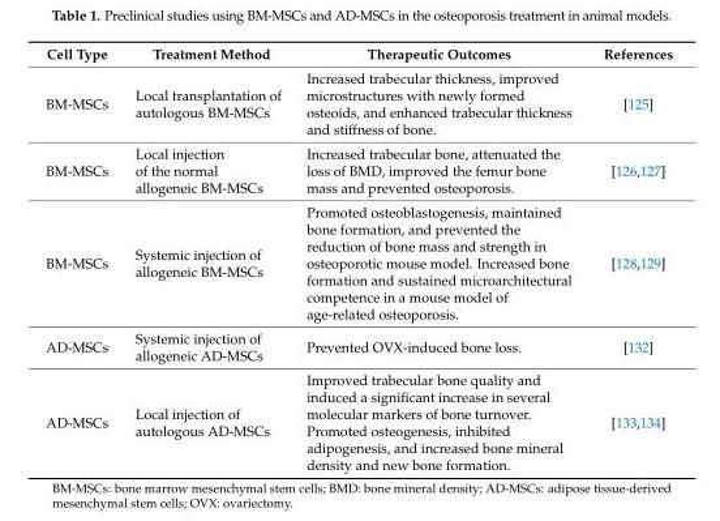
<table><thead><tr><td>Cell Type</td><td>Treatment Method</td><td>Therapeutic Outcomes</td><td>References</td></tr></thead><tbody><tr><td>BM-MSCs</td><td>Local transplantation of autologous BM-MSCs</td><td>Increased trabecular thickness, improved microstructures with newly formed osteoids, and enhanced trabecular thickness and stiffness of bone.</td><td>[125]</td></tr><tr><td>BM-MSCs</td><td>Local injection of the normal allogeneic BM-MSCs</td><td>Increased trabecular bone, attenuated the loss of BMD, improved the femur bone mass and prevented osteoporosis.</td><td>[126,127]</td></tr><tr><td>BM-MSCs</td><td>Systemic injection of allogeneic BM-MSCs</td><td>Promoted osteoblastogenesis, maintained bone formation, and prevented the reduction of bone mass and strength in osteoporotic mouse model. Increased bone formation and sustained microarchitectural competence in a mouse model of age-related osteoporosis.</td><td>[128,129]</td></tr><tr><td>AD-MSCs</td><td>Systemic injection of allogeneic AD-MSCs</td><td>Prevented OVX-induced bone loss.</td><td>[132]</td></tr><tr><td>AD-MSCs</td><td>Local injection of autologous AD-MSCs</td><td>Improved trabecular bone quality and induced a significant increase in several molecular markers of bone turnover. Promoted osteogenesis, inhibited adipogenesis, and increased bone mineral density and new bone formation.</td><td>[133,134]</td></tr></tbody></table>